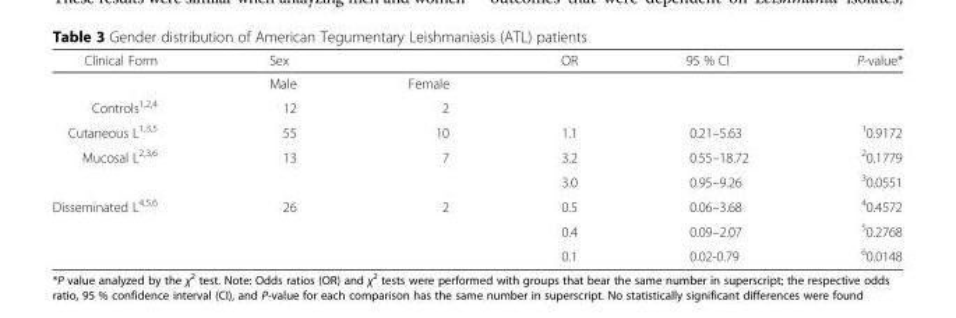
<table><thead><tr><td rowspan="2">Clinical Form</td><td colspan="2">Sex</td><td rowspan="2">OR</td><td rowspan="2">95 % CI</td><td rowspan="2">P-value*</td></tr><tr><td>Male</td><td>Female</td></tr></thead><tbody><tr><td>Controls<sup>1,2,4</sup></td><td>12</td><td>2</td><td></td><td></td><td></td></tr><tr><td>Cutaneous L<sup>1,3,5</sup></td><td>55</td><td>10</td><td>1.1</td><td>0.21–5.63</td><td><sup>1</sup>0.9172</td></tr><tr><td rowspan="2">Mucosal L<sup>2,3,6</sup></td><td>13</td><td>7</td><td>3.2</td><td>0.55–18.72</td><td><sup>2</sup>0.1779</td></tr><tr><td></td><td></td><td>3.0</td><td>0.95–9.26</td><td><sup>3</sup>0.0551</td></tr><tr><td rowspan="3">Disseminated L<sup>4,5,6</sup></td><td>26</td><td>2</td><td>0.5</td><td>0.06–3.68</td><td><sup>4</sup>0.4572</td></tr><tr><td></td><td></td><td>0.4</td><td>0.09–2.07</td><td><sup>5</sup>0.2768</td></tr><tr><td></td><td></td><td>0.1</td><td>0.02-0.79</td><td><sup>6</sup>0.0148</td></tr></tbody></table>